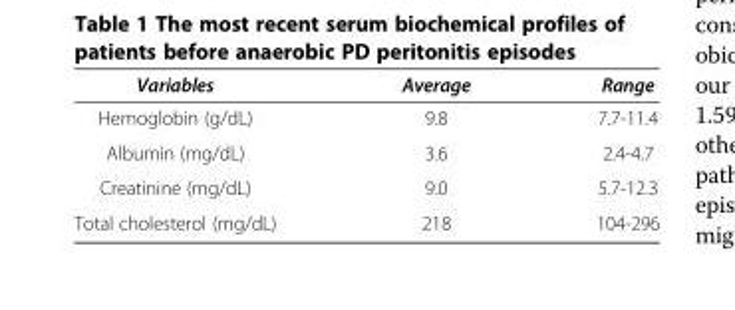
<table><thead><tr><td>Variables</td><td>Average</td><td>Range</td></tr></thead><tbody><tr><td>Hemoglobin (g/dL)</td><td>9.8</td><td>7.7-11.4</td></tr><tr><td>Albumin (mg/dL)</td><td>3.6</td><td>2.4-4.7</td></tr><tr><td>Creatinine (mg/dL)</td><td>9.0</td><td>5.7-12.3</td></tr><tr><td>Total cholesterol (mg/dL)</td><td>218</td><td>104-296</td></tr></tbody></table>